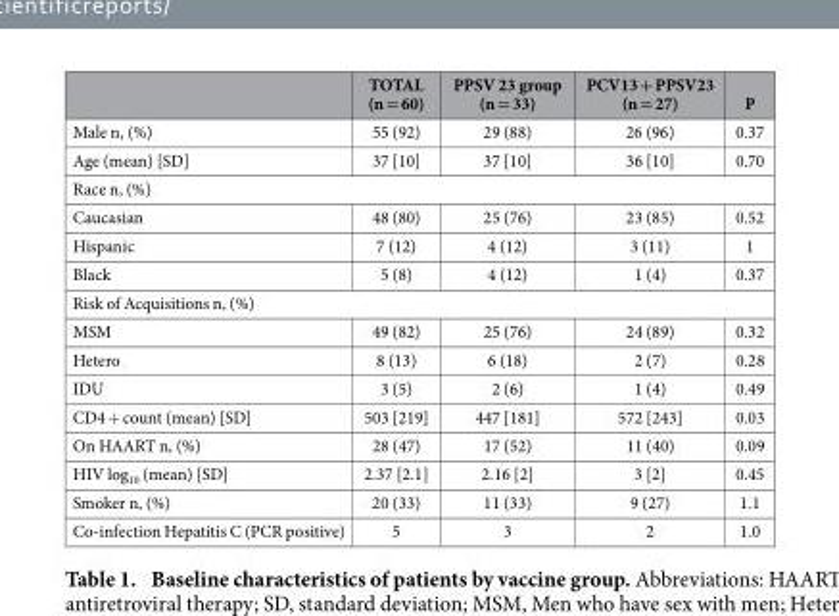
<table><thead><tr><td></td><td>TOTAL (n = 60)</td><td>PPSV 23 group (n = 33)</td><td>PCV13 + PPSV23 (n = 27)</td><td>P</td></tr></thead><tbody><tr><td>Male n, (%)</td><td>55 (92)</td><td>29 (88)</td><td>26 (96)</td><td>0.37</td></tr><tr><td>Age (mean) [SD]</td><td>37 [10]</td><td>37 [10]</td><td>36 [10]</td><td>0.70</td></tr><tr><td colspan="5">Race n, (%)</td></tr><tr><td>Caucasian</td><td>48 (80)</td><td>25 (76)</td><td>23 (85)</td><td>0.52</td></tr><tr><td>Hispanic</td><td>7 (12)</td><td>4 (12)</td><td>3 (11)</td><td>1</td></tr><tr><td>Black</td><td>5 (8)</td><td>4 (12)</td><td>1 (4)</td><td>0.37</td></tr><tr><td colspan="5">Risk of Acquisitions n, (%)</td></tr><tr><td>MSM</td><td>49 (82)</td><td>25 (76)</td><td>24 (89)</td><td>0.32</td></tr><tr><td>Hetero</td><td>8 (13)</td><td>6 (18)</td><td>2 (7)</td><td>0.28</td></tr><tr><td>IDU</td><td>3 (5)</td><td>2 (6)</td><td>1 (4)</td><td>0.49</td></tr><tr><td>CD4 + count (mean) [SD]</td><td>503 [219]</td><td>447 [181]</td><td>572 [243]</td><td>0.03</td></tr><tr><td>On HAART n, (%)</td><td>28 (47)</td><td>17 (52)</td><td>11 (40)</td><td>0.09</td></tr><tr><td>HIV log<sub>10</sub> (mean) [SD]</td><td>2.37 [2.1]</td><td>2.16 [2]</td><td>3 [2]</td><td>0.45</td></tr><tr><td>Smoker n, (%)</td><td>20 (33)</td><td>11 (33)</td><td>9 (27)</td><td>1.1</td></tr><tr><td>Co-infection Hepatitis C (PCR positive)</td><td>5</td><td>3</td><td>2</td><td>1.0</td></tr></tbody></table>